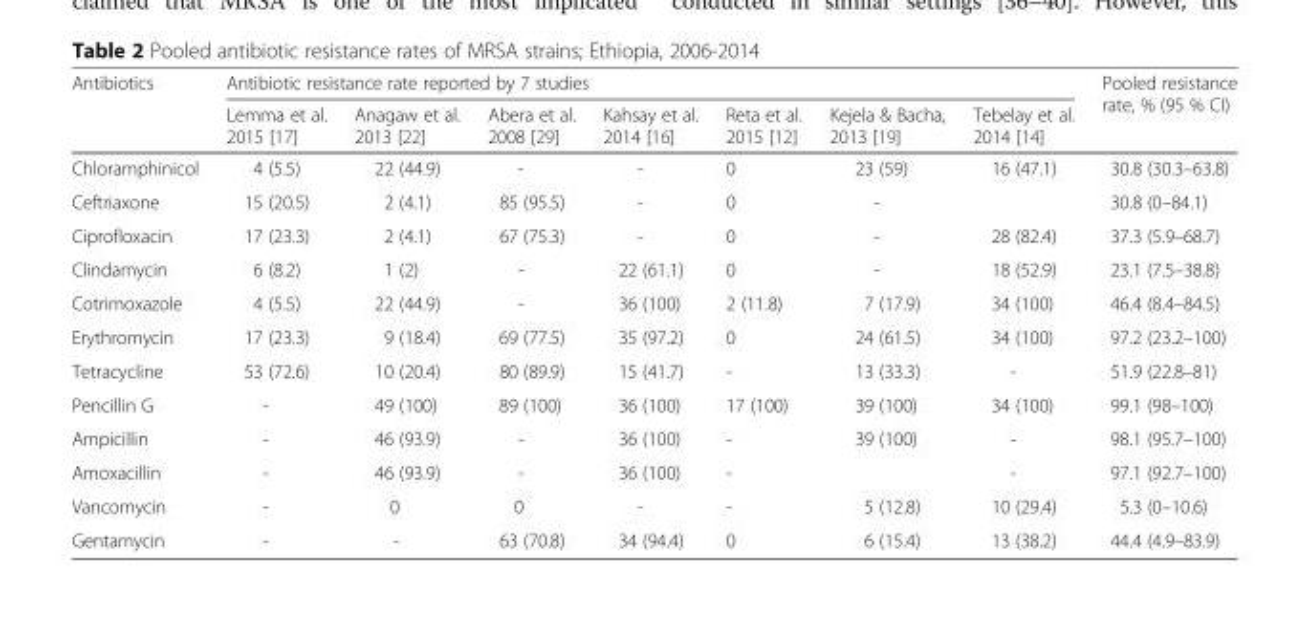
<table><thead><tr><td rowspan="2">Antibiotics</td><td colspan="7">Antibiotic resistance rate reported by 7 studies</td><td rowspan="2">Pooled resistance rate, % (95 % CI)</td></tr><tr><td>Lemma et al. 2015 [17]</td><td>Anagaw et al. 2013 [22]</td><td>Abera et al. 2008 [29]</td><td>Kahsay et al. 2014 [16]</td><td>Reta et al. 2015 [12]</td><td>Kejela &amp; Bacha, 2013 [19]</td><td>Tebelay et al. 2014 [14]</td></tr></thead><tbody><tr><td>Chloramphinicol</td><td>4 (5.5)</td><td>22 (44.9)</td><td>-</td><td>-</td><td>0</td><td>23 (59)</td><td>16 (47.1)</td><td>30.8 (30.3–63.8)</td></tr><tr><td>Ceftriaxone</td><td>15 (20.5)</td><td>2 (4.1)</td><td>85 (95.5)</td><td>-</td><td>0</td><td>-</td><td></td><td>30.8 (0–84.1)</td></tr><tr><td>Ciprofloxacin</td><td>17 (23.3)</td><td>2 (4.1)</td><td>67 (75.3)</td><td>-</td><td>0</td><td>-</td><td>28 (82.4)</td><td>37.3 (5.9–68.7)</td></tr><tr><td>Clindamycin</td><td>6 (8.2)</td><td>1 (2)</td><td>-</td><td>22 (61.1)</td><td>0</td><td>-</td><td>18 (52.9)</td><td>23.1 (7.5–38.8)</td></tr><tr><td>Cotrimoxazole</td><td>4 (5.5)</td><td>22 (44.9)</td><td>-</td><td>36 (100)</td><td>2 (11.8)</td><td>7 (17.9)</td><td>34 (100)</td><td>46.4 (8.4–84.5)</td></tr><tr><td>Erythromycin</td><td>17 (23.3)</td><td>9 (18.4)</td><td>69 (77.5)</td><td>35 (97.2)</td><td>0</td><td>24 (61.5)</td><td>34 (100)</td><td>97.2 (23.2–100)</td></tr><tr><td>Tetracycline</td><td>53 (72.6)</td><td>10 (20.4)</td><td>80 (89.9)</td><td>15 (41.7)</td><td>-</td><td>13 (33.3)</td><td>-</td><td>51.9 (22.8–81)</td></tr><tr><td>Pencillin G</td><td>-</td><td>49 (100)</td><td>89 (100)</td><td>36 (100)</td><td>17 (100)</td><td>39 (100)</td><td>34 (100)</td><td>99.1 (98–100)</td></tr><tr><td>Ampicillin</td><td>-</td><td>46 (93.9)</td><td>-</td><td>36 (100)</td><td>-</td><td>39 (100)</td><td>-</td><td>98.1 (95.7–100)</td></tr><tr><td>Amoxacillin</td><td>-</td><td>46 (93.9)</td><td>-</td><td>36 (100)</td><td>-</td><td></td><td>-</td><td>97.1 (92.7–100)</td></tr><tr><td>Vancomycin</td><td>-</td><td>0</td><td>0</td><td>-</td><td>-</td><td>5 (12.8)</td><td>10 (29.4)</td><td>5.3 (0–10.6)</td></tr><tr><td>Gentamycin</td><td>-</td><td>-</td><td>63 (70.8)</td><td>34 (94.4)</td><td>0</td><td>6 (15.4)</td><td>13 (38.2)</td><td>44.4 (4.9–83.9)</td></tr></tbody></table>